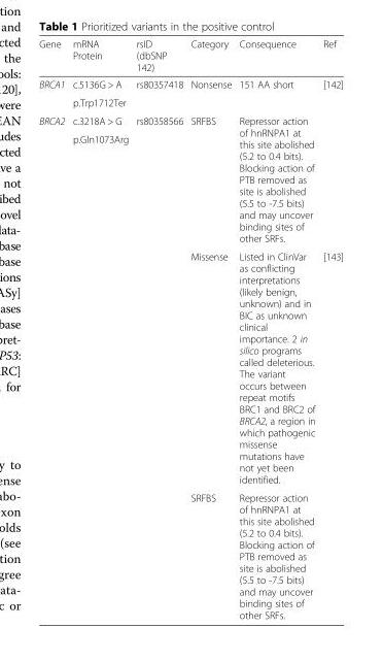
<table><thead><tr><td>Gene</td><td>mRNA Protein</td><td>rsID (dbSNP 142)</td><td>Category</td><td>Consequence</td><td>Ref</td></tr></thead><tbody><tr><td rowspan="2">BRCA1</td><td>c.5136G &gt; A</td><td rowspan="2">rs80357418</td><td rowspan="2">Nonsense</td><td rowspan="2">151 AA short</td><td rowspan="2">[142]</td></tr><tr><td>p.Trp1712Ter</td></tr><tr><td rowspan="4">BRCA2</td><td>c.3218A &gt; G</td><td rowspan="4">rs80358566</td><td rowspan="2">SRFBS</td><td rowspan="2">Repressor action of hnRNPA1 at this site abolished (5.2 to 0.4 bits). Blocking action of PTB removed as site is abolished (5.5 to -7.5 bits) and may uncover binding sites of other SRFs.</td><td rowspan="2"></td></tr><tr><td rowspan="3">p.Gln1073Arg</td></tr><tr><td>Missense</td><td>Listed in ClinVar as conflicting interpretations (likely benign, unknown) and in BIC as unknown clinical importance. 2 in silico programs called deleterious. The variant occurs between repeat motifs BRC1 and BRC2 of BRCA2, a region in which pathogenic missense mutations have not yet been identified.</td><td rowspan="2">[143]</td></tr><tr><td>SRFBS</td><td>Repressor action of hnRNPA1 at this site abolished (5.2 to 0.4 bits). Blocking action of PTB removed as site is abolished (5.5 to -7.5 bits) and may uncover binding sites of other SRFs.</td></tr></tbody></table>